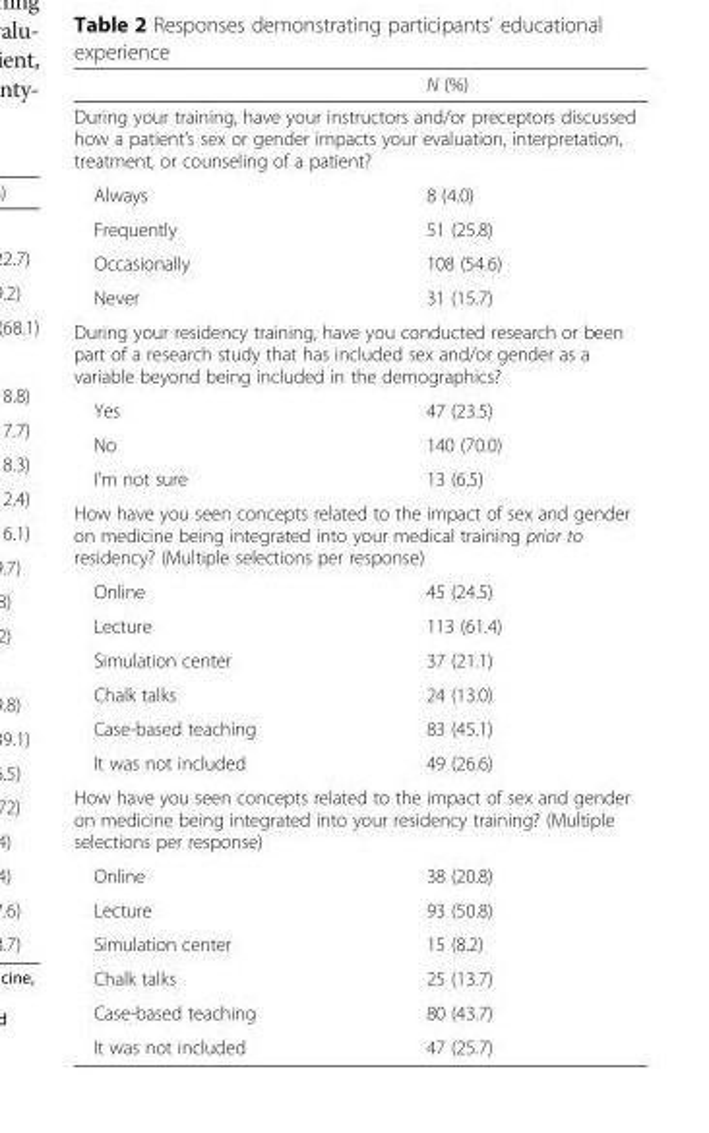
<table><thead><tr><td></td><td>N (%)</td></tr></thead><tbody><tr><td colspan="2">During your training, have your instructors and/or preceptors discussed how a patient’s sex or gender impacts your evaluation, interpretation, treatment, or counseling of a patient?</td></tr><tr><td>Always</td><td>8 (4.0)</td></tr><tr><td>Frequently</td><td>51 (25.8)</td></tr><tr><td>Occasionally</td><td>108 (54.6)</td></tr><tr><td>Never</td><td>31 (15.7)</td></tr><tr><td colspan="2">During your residency training, have you conducted research or been part of a research study that has included sex and/or gender as a variable beyond being included in the demographics?</td></tr><tr><td>Yes</td><td>47 (23.5)</td></tr><tr><td>No</td><td>140 (70.0)</td></tr><tr><td>I’m not sure</td><td>13 (6.5)</td></tr><tr><td colspan="2">How have you seen concepts related to the impact of sex and gender on medicine being integrated into your medical training prior to residency? (Multiple selections per response)</td></tr><tr><td>Online</td><td>45 (24.5)</td></tr><tr><td>Lecture</td><td>113 (61.4)</td></tr><tr><td>Simulation center</td><td>37 (21.1)</td></tr><tr><td>Chalk talks</td><td>24 (13.0)</td></tr><tr><td>Case-based teaching</td><td>83 (45.1)</td></tr><tr><td>It was not included</td><td>49 (26.6)</td></tr><tr><td colspan="2">How have you seen concepts related to the impact of sex and gender on medicine being integrated into your residency training? (Multiple selections per response)</td></tr><tr><td>Online</td><td>38 (20.8)</td></tr><tr><td>Lecture</td><td>93 (50.8)</td></tr><tr><td>Simulation center</td><td>15 (8.2)</td></tr><tr><td>Chalk talks</td><td>25 (13.7)</td></tr><tr><td>Case-based teaching</td><td>80 (43.7)</td></tr><tr><td>It was not included</td><td>47 (25.7)</td></tr></tbody></table>